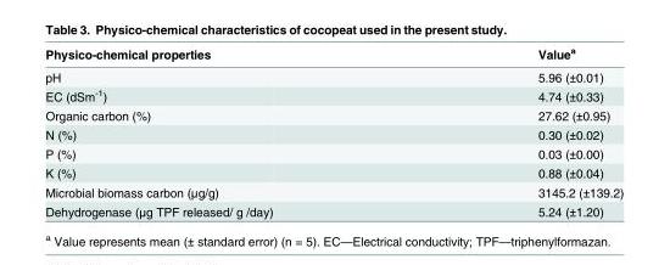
<table><thead><tr><td>Physico-chemical properties</td><td>Value<sup>a</sup></td></tr></thead><tbody><tr><td>pH</td><td>5.96 (±0.01)</td></tr><tr><td>EC (dSm<sup>-1</sup>)</td><td>4.74 (±0.33)</td></tr><tr><td>Organic carbon (%)</td><td>27.62 (±0.95)</td></tr><tr><td>N (%)</td><td>0.30 (±0.02)</td></tr><tr><td>P (%)</td><td>0.03 (±0.00)</td></tr><tr><td>K (%)</td><td>0.88 (±0.04)</td></tr><tr><td>Microbial biomass carbon (μg/g)</td><td>3145.2 (±139.2)</td></tr><tr><td>Dehydrogenase (μg TPF released/ g /day)</td><td>5.24 (±1.20)</td></tr></tbody></table>